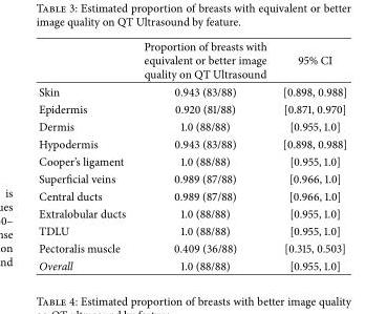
<table><thead><tr><td></td><td>Proportion of breasts with equivalent or better image quality on QT Ultrasound</td><td>95% CI</td></tr></thead><tbody><tr><td>Skin</td><td>0.943 (83/88)</td><td>[0.898, 0.988]</td></tr><tr><td>Epidermis</td><td>0.920 (81/88)</td><td>[0.871, 0.970]</td></tr><tr><td>Dermis</td><td>1.0 (88/88)</td><td>[0.955, 1.0]</td></tr><tr><td>Hypodermis</td><td>0.943 (83/88)</td><td>[0.898, 0.988]</td></tr><tr><td>Cooper’s ligament</td><td>1.0 (88/88)</td><td>[0.955, 1.0]</td></tr><tr><td>Superficial veins</td><td>0.989 (87/88)</td><td>[0.966, 1.0]</td></tr><tr><td>Central ducts</td><td>0.989 (87/88)</td><td>[0.966, 1.0]</td></tr><tr><td>Extralobular ducts</td><td>1.0 (88/88)</td><td>[0.955, 1.0]</td></tr><tr><td>TDLU</td><td>1.0 (88/88)</td><td>[0.955, 1.0]</td></tr><tr><td>Pectoralis muscle</td><td>0.409 (36/88)</td><td>[0.315, 0.503]</td></tr><tr><td>Overall</td><td>1.0 (88/88)</td><td>[0.955, 1.0]</td></tr></tbody></table>